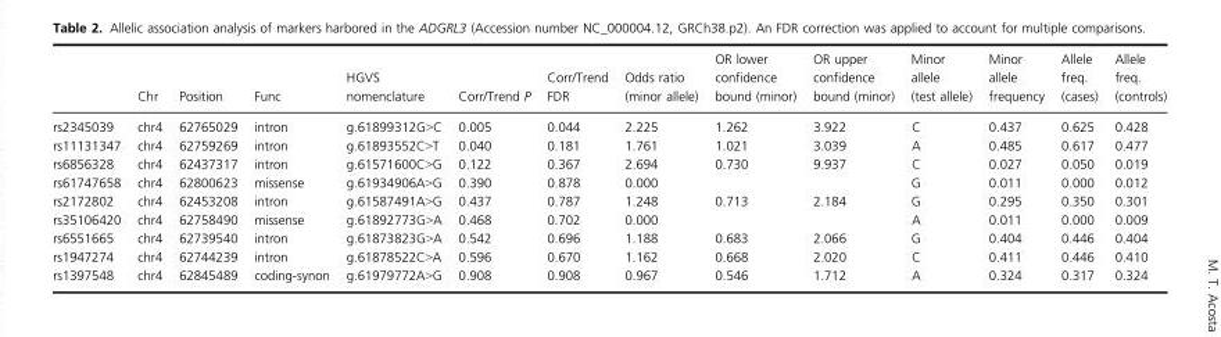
<table><thead><tr><td></td><td>Chr</td><td>Position</td><td>Func</td><td>HGVS nomenclature</td><td>Corr/Trend P</td><td>Corr/Trend FDR</td><td>Odds ratio (minor allele)</td><td>OR lower confidence bound (minor)</td><td>OR upper confidence bound (minor)</td><td>Minor allele (test allele)</td><td>Minor allele frequency</td><td>Allele freq. (cases)</td><td>Allele freq. (controls)</td></tr></thead><tbody><tr><td>rs2345039</td><td>chr4</td><td>62765029</td><td>intron</td><td>g.61899312G&gt;C</td><td>0.005</td><td>0.044</td><td>2.225</td><td>1.262</td><td>3.922</td><td>C</td><td>0.437</td><td>0.625</td><td>0.428</td></tr><tr><td>rs11131347</td><td>chr4</td><td>62759269</td><td>intron</td><td>g.61893552C&gt;T</td><td>0.040</td><td>0.181</td><td>1.761</td><td>1.021</td><td>3.039</td><td>A</td><td>0.485</td><td>0.617</td><td>0.477</td></tr><tr><td>rs6856328</td><td>chr4</td><td>62437317</td><td>intron</td><td>g.61571600C&gt;G</td><td>0.122</td><td>0.367</td><td>2.694</td><td>0.730</td><td>9.937</td><td>C</td><td>0.027</td><td>0.050</td><td>0.019</td></tr><tr><td>rs61747658</td><td>chr4</td><td>62800623</td><td>missense</td><td>g.61934906A&gt;G</td><td>0.390</td><td>0.878</td><td>0.000</td><td></td><td></td><td>G</td><td>0.011</td><td>0.000</td><td>0.012</td></tr><tr><td>rs2172802</td><td>chr4</td><td>62453208</td><td>intron</td><td>g.61587491A&gt;G</td><td>0.437</td><td>0.787</td><td>1.248</td><td>0.713</td><td>2.184</td><td>G</td><td>0.295</td><td>0.350</td><td>0.301</td></tr><tr><td>rs35106420</td><td>chr4</td><td>62758490</td><td>missense</td><td>g.61892773G&gt;A</td><td>0.468</td><td>0.702</td><td>0.000</td><td></td><td></td><td>A</td><td>0.011</td><td>0.000</td><td>0.009</td></tr><tr><td>rs6551665</td><td>chr4</td><td>62739540</td><td>intron</td><td>g.61873823G&gt;A</td><td>0.542</td><td>0.696</td><td>1.188</td><td>0.683</td><td>2.066</td><td>G</td><td>0.404</td><td>0.446</td><td>0.404</td></tr><tr><td>rs1947274</td><td>chr4</td><td>62744239</td><td>intron</td><td>g.61878522C&gt;A</td><td>0.596</td><td>0.670</td><td>1.162</td><td>0.668</td><td>2.020</td><td>C</td><td>0.411</td><td>0.446</td><td>0.410</td></tr><tr><td>rs1397548</td><td>chr4</td><td>62845489</td><td>coding-synon</td><td>g.61979772A&gt;G</td><td>0.908</td><td>0.908</td><td>0.967</td><td>0.546</td><td>1.712</td><td>A</td><td>0.324</td><td>0.317</td><td>0.324</td></tr></tbody></table>